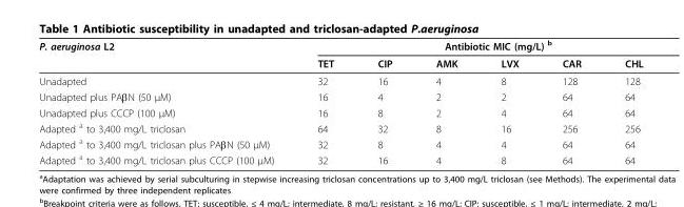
<table><thead><tr><td rowspan="2">P. aeruginosa L2</td><td colspan="6">Antibiotic MIC (mg/L) <sup>b</sup></td></tr><tr><td>TET</td><td>CIP</td><td>AMK</td><td>LVX</td><td>CAR</td><td>CHL</td></tr></thead><tbody><tr><td>Unadapted</td><td>32</td><td>16</td><td>4</td><td>8</td><td>128</td><td>128</td></tr><tr><td>Unadapted plus PAβN (50 μM)</td><td>16</td><td>4</td><td>2</td><td>2</td><td>64</td><td>64</td></tr><tr><td>Unadapted plus CCCP (100 μM)</td><td>16</td><td>8</td><td>2</td><td>4</td><td>64</td><td>64</td></tr><tr><td>Adapted <sup>a</sup> to 3,400 mg/L triclosan</td><td>64</td><td>32</td><td>8</td><td>16</td><td>256</td><td>256</td></tr><tr><td>Adapted <sup>a</sup> to 3,400 mg/L triclosan plus PAβN (50 μM)</td><td>32</td><td>8</td><td>4</td><td>4</td><td>64</td><td>64</td></tr><tr><td>Adapted <sup>a</sup> to 3,400 mg/L triclosan plus CCCP (100 μM)</td><td>32</td><td>16</td><td>4</td><td>8</td><td>64</td><td>64</td></tr></tbody></table>